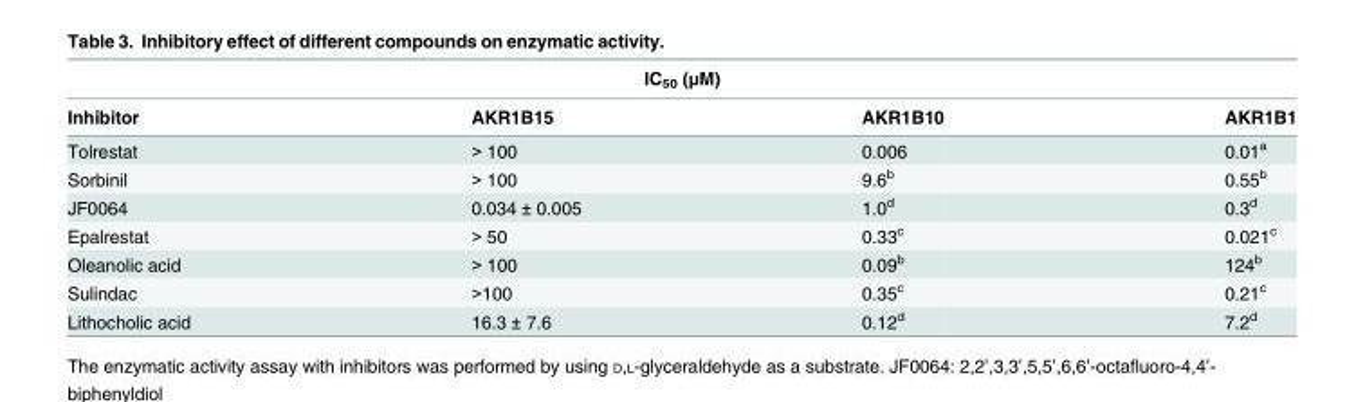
<table><thead><tr><td colspan="4">IC<sub>50</sub> (μM)</td></tr><tr><td>Inhibitor</td><td>AKR1B15</td><td>AKR1B10</td><td>AKR1B1</td></tr></thead><tbody><tr><td>Tolrestat</td><td>&gt; 100</td><td>0.006</td><td>0.01<sup>a</sup></td></tr><tr><td>Sorbinil</td><td>&gt; 100</td><td>9.6<sup>b</sup></td><td>0.55<sup>b</sup></td></tr><tr><td>JF0064</td><td>0.034 ± 0.005</td><td>1.0<sup>d</sup></td><td>0.3<sup>d</sup></td></tr><tr><td>Epalrestat</td><td>&gt; 50</td><td>0.33<sup>c</sup></td><td>0.021<sup>c</sup></td></tr><tr><td>Oleanolic acid</td><td>&gt; 100</td><td>0.09<sup>b</sup></td><td>124<sup>b</sup></td></tr><tr><td>Sulindac</td><td>&gt;100</td><td>0.35<sup>c</sup></td><td>0.21<sup>c</sup></td></tr><tr><td>Lithocholic acid</td><td>16.3 ± 7.6</td><td>0.12<sup>d</sup></td><td>7.2<sup>d</sup></td></tr></tbody></table>